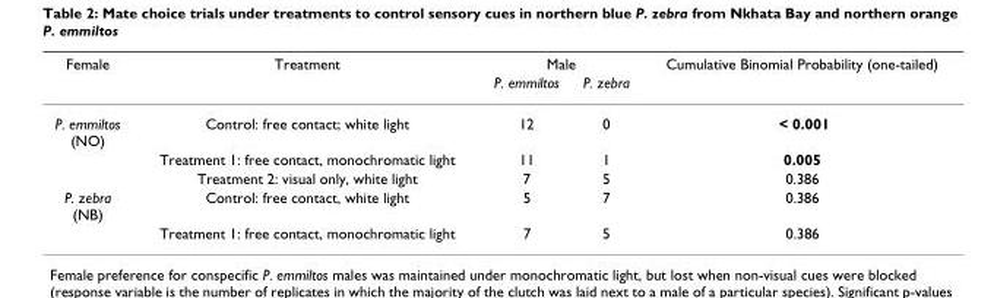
<table><thead><tr><td rowspan="2">Female</td><td rowspan="2">Treatment</td><td colspan="2">Male</td><td rowspan="2">Cumulative Binomial Probability (one-tailed)</td></tr><tr><td>P. emmiltos</td><td>P. zebra</td></tr></thead><tbody><tr><td rowspan="3">P. emmiltos (NO)</td><td>Control: free contact; white light</td><td>12</td><td>0</td><td>&lt; 0.001</td></tr><tr><td>Treatment 1: free contact, monochromatic light</td><td>11</td><td>1</td><td>0.005</td></tr><tr><td>Treatment 2: visual only, white light</td><td>7</td><td>5</td><td>0.386</td></tr><tr><td rowspan="2">P. zebra (NB)</td><td>Control: free contact, white light</td><td>5</td><td>7</td><td>0.386</td></tr><tr><td>Treatment 1: free contact, monochromatic light</td><td>7</td><td>5</td><td>0.386</td></tr></tbody></table>